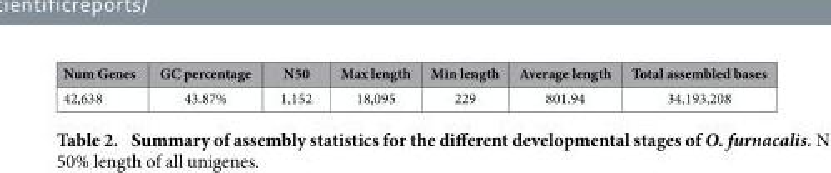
<table><thead><tr><td>Num Genes</td><td>GC percentage</td><td>N50</td><td>Max length</td><td>Min length</td><td>Average length</td><td>Total assembled bases</td></tr></thead><tbody><tr><td>42,638</td><td>43.87%</td><td>1,152</td><td>18,095</td><td>229</td><td>801.94</td><td>34,193,208</td></tr></tbody></table>